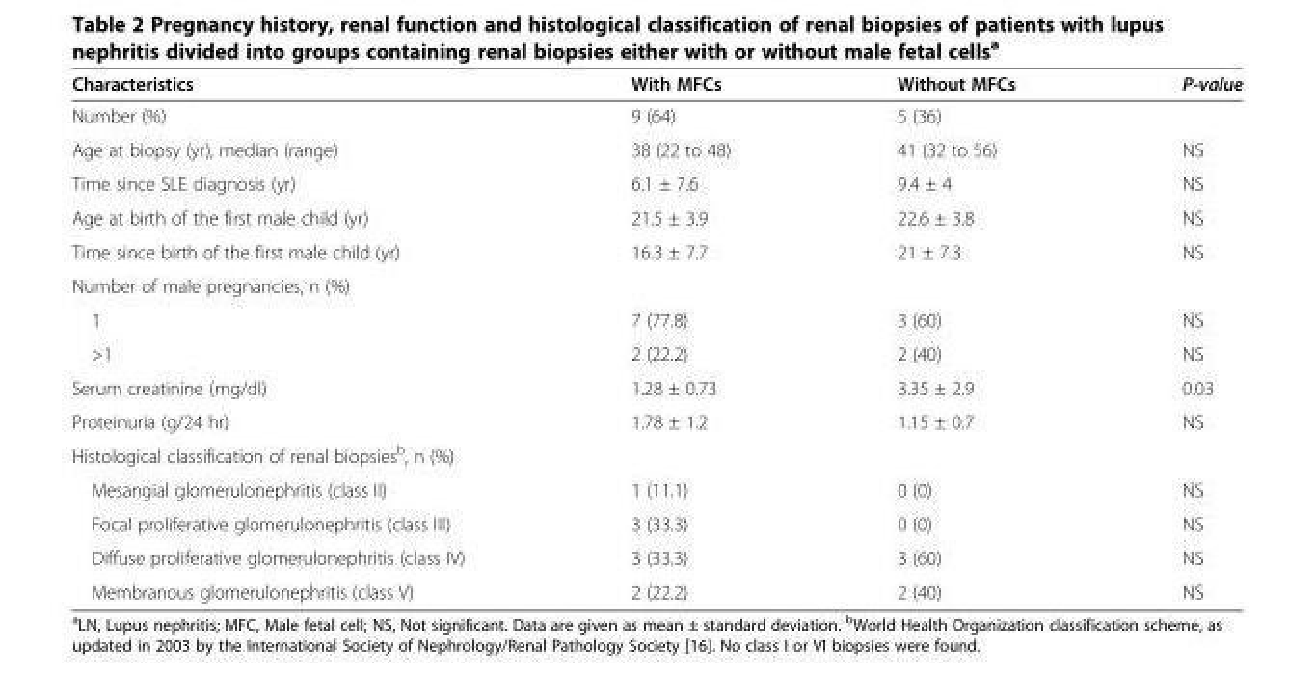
<table><thead><tr><td>Characteristics</td><td>With MFCs</td><td>Without MFCs</td><td>P-value</td></tr></thead><tbody><tr><td>Number (%)</td><td>9 (64)</td><td>5 (36)</td><td></td></tr><tr><td>Age at biopsy (yr), median (range)</td><td>38 (22 to 48)</td><td>41 (32 to 56)</td><td>NS</td></tr><tr><td>Time since SLE diagnosis (yr)</td><td>6.1 ± 7.6</td><td>9.4 ± 4</td><td>NS</td></tr><tr><td>Age at birth of the first male child (yr)</td><td>21.5 ± 3.9</td><td>22.6 ± 3.8</td><td>NS</td></tr><tr><td>Time since birth of the first male child (yr)</td><td>16.3 ± 7.7</td><td>21 ± 7.3</td><td>NS</td></tr><tr><td colspan="4">Number of male pregnancies, n (%)</td></tr><tr><td>1</td><td>7 (77.8)</td><td>3 (60)</td><td>NS</td></tr><tr><td>&gt;1</td><td>2 (22.2)</td><td>2 (40)</td><td>NS</td></tr><tr><td>Serum creatinine (mg/dl)</td><td>1.28 ± 0.73</td><td>3.35 ± 2.9</td><td>0.03</td></tr><tr><td>Proteinuria (g/24 hr)</td><td>1.78 ± 1.2</td><td>1.15 ± 0.7</td><td>NS</td></tr><tr><td colspan="4">Histological classification of renal biopsies<sup>b</sup>, n (%)</td></tr><tr><td>Mesangial glomerulonephritis (class II)</td><td>1 (11.1)</td><td>0 (0)</td><td>NS</td></tr><tr><td>Focal proliferative glomerulonephritis (class III)</td><td>3 (33.3)</td><td>0 (0)</td><td>NS</td></tr><tr><td>Diffuse proliferative glomerulonephritis (class IV)</td><td>3 (33.3)</td><td>3 (60)</td><td>NS</td></tr><tr><td>Membranous glomerulonephritis (class V)</td><td>2 (22.2)</td><td>2 (40)</td><td>NS</td></tr></tbody></table>